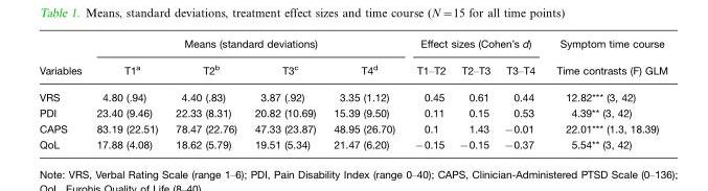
<table><thead><tr><td rowspan="2">Variables</td><td colspan="4">Means (standard deviations)</td><td colspan="3">Effect sizes (Cohen’s d)</td><td rowspan="2">Symptom time course Time contrasts (F) GLM</td></tr><tr><td>T1a</td><td>T2b</td><td>T3c</td><td>T4d</td><td>T1–T2</td><td>T2–T3</td><td>T3–T4</td></tr></thead><tbody><tr><td>VRS</td><td>4.80 (.94)</td><td>4.40 (.83)</td><td>3.87 (.92)</td><td>3.35 (1.12)</td><td>0.45</td><td>0.61</td><td>0.44</td><td>12.82*** (3, 42)</td></tr><tr><td>PDI</td><td>23.40 (9.46)</td><td>22.33 (8.31)</td><td>20.82 (10.69)</td><td>15.39 (9.50)</td><td>0.11</td><td>0.15</td><td>0.53</td><td>4.39** (3, 42)</td></tr><tr><td>CAPS</td><td>83.19 (22.51)</td><td>78.47 (22.76)</td><td>47.33 (23.87)</td><td>48.95 (26.70)</td><td>0.1</td><td>1.43</td><td>−0.01</td><td>22.01*** (1.3, 18.39)</td></tr><tr><td>QoL</td><td>17.88 (4.08)</td><td>18.62 (5.79)</td><td>19.51 (5.34)</td><td>21.47 (6.20)</td><td>−0.15</td><td>−0.15</td><td>−0.37</td><td>5.54** (3, 42)</td></tr></tbody></table>